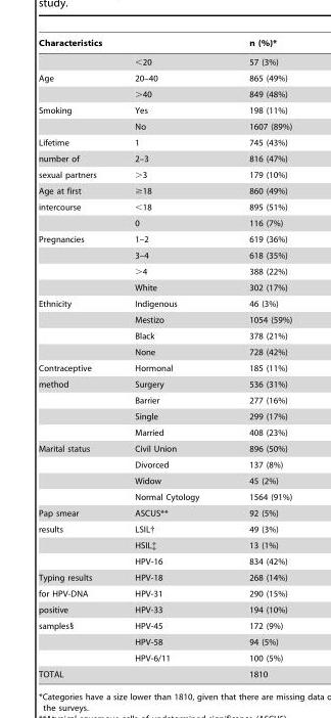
<table><thead><tr><td colspan="2">Characteristics</td><td rowspan="2">n (%)* 57 (3%)</td></tr><tr><td></td><td>&lt;20</td></tr></thead><tbody><tr><td rowspan="2">Age</td><td>20–40</td><td>865 (49%)</td></tr><tr><td>&gt;40</td><td>849 (48%)</td></tr><tr><td rowspan="2">Smoking</td><td>Yes</td><td>198 (11%)</td></tr><tr><td>No</td><td>1607 (89%)</td></tr><tr><td>Lifetime</td><td>1</td><td>745 (43%)</td></tr><tr><td>number of</td><td>2–3</td><td>816 (47%)</td></tr><tr><td>sexual partners</td><td>&gt;3</td><td>179 (10%)</td></tr><tr><td>Age at first</td><td>≥18</td><td>860 (49%)</td></tr><tr><td rowspan="2">intercourse</td><td>&lt;18</td><td>895 (51%)</td></tr><tr><td>0</td><td>116 (7%)</td></tr><tr><td rowspan="4">Pregnancies</td><td>1–2</td><td>619 (36%)</td></tr><tr><td>3–4</td><td>618 (35%)</td></tr><tr><td>&gt;4</td><td>388 (22%)</td></tr><tr><td>White</td><td>302 (17%)</td></tr><tr><td rowspan="4">Ethnicity</td><td>Indigenous</td><td>46 (3%)</td></tr><tr><td>Mestizo</td><td>1054 (59%)</td></tr><tr><td>Black</td><td>378 (21%)</td></tr><tr><td>None</td><td>728 (42%)</td></tr><tr><td>Contraceptive</td><td>Hormonal</td><td>185 (11%)</td></tr><tr><td rowspan="4">method</td><td>Surgery</td><td>536 (31%)</td></tr><tr><td>Barrier</td><td>277 (16%)</td></tr><tr><td>Single</td><td>299 (17%)</td></tr><tr><td>Married</td><td>408 (23%)</td></tr><tr><td rowspan="4">Marital status</td><td>Civil Union</td><td>896 (50%)</td></tr><tr><td>Divorced</td><td>137 (8%)</td></tr><tr><td>Widow</td><td>45 (2%)</td></tr><tr><td>Normal Cytology</td><td>1564 (91%)</td></tr><tr><td>Pap smear</td><td>ASCUS**</td><td>92 (5%)</td></tr><tr><td rowspan="3">results</td><td>LSIL†</td><td>49 (3%)</td></tr><tr><td>HSIL‡</td><td>13 (1%)</td></tr><tr><td>HPV-16</td><td>834 (42%)</td></tr><tr><td>Typing results</td><td>HPV-18</td><td>268 (14%)</td></tr><tr><td>for HPV-DNA</td><td>HPV-31</td><td>290 (15%)</td></tr><tr><td>positive</td><td>HPV-33</td><td>194 (10%)</td></tr><tr><td rowspan="3">samples§</td><td>HPV-45</td><td>172 (9%)</td></tr><tr><td>HPV-58</td><td>94 (5%)</td></tr><tr><td>HPV-6/11</td><td>100 (5%)</td></tr><tr><td colspan="2">TOTAL</td><td>1810</td></tr></tbody></table>